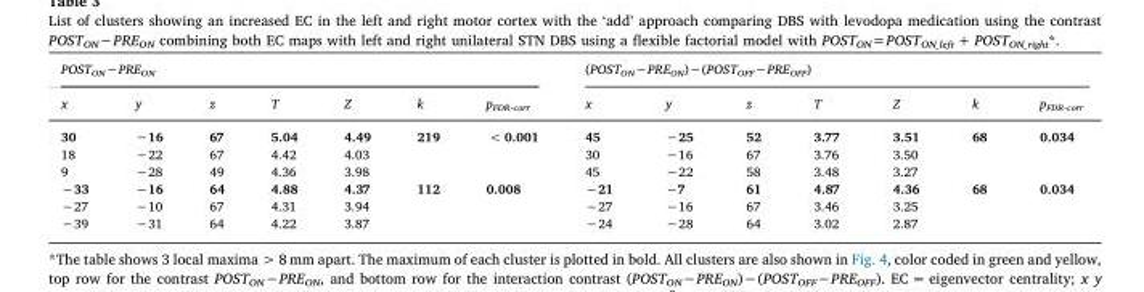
<table><thead><tr><td colspan="7">POST<sub>ON</sub>−PRE<sub>ON</sub></td><td colspan="7">(POST<sub>ON</sub>−PRE<sub>ON</sub>)−(POST<sub>OFF</sub>−PRE<sub>OFF</sub>)</td></tr><tr><td>x</td><td>y</td><td>z</td><td>T</td><td>Z</td><td>k</td><td>p<sub>FDR-corr</sub></td><td>x</td><td>y</td><td>z</td><td>T</td><td>Z</td><td>k</td><td>p<sub>FDR-corr</sub></td></tr></thead><tbody><tr><td>30</td><td>−16</td><td>67</td><td>5.04</td><td>4.49</td><td>219</td><td>&lt; 0.001</td><td>45</td><td>−25</td><td>52</td><td>3.77</td><td>3.51</td><td>68</td><td>0.034</td></tr><tr><td>18</td><td>−22</td><td>67</td><td>4.42</td><td>4.03</td><td></td><td></td><td>30</td><td>−16</td><td>67</td><td>3.76</td><td>3.50</td><td></td><td></td></tr><tr><td>9</td><td>−28</td><td>49</td><td>4.36</td><td>3.98</td><td></td><td></td><td>45</td><td>−22</td><td>58</td><td>3.48</td><td>3.27</td><td></td><td></td></tr><tr><td>−33</td><td>−16</td><td>64</td><td>4.88</td><td>4.37</td><td>112</td><td>0.008</td><td>−21</td><td>−7</td><td>61</td><td>4.87</td><td>4.36</td><td>68</td><td>0.034</td></tr><tr><td>−27</td><td>−10</td><td>67</td><td>4.31</td><td>3.94</td><td></td><td></td><td>−27</td><td>−16</td><td>67</td><td>3.46</td><td>3.25</td><td></td><td></td></tr><tr><td>−39</td><td>−31</td><td>64</td><td>4.22</td><td>3.87</td><td></td><td></td><td>−24</td><td>−28</td><td>64</td><td>3.02</td><td>2.87</td><td></td><td></td></tr></tbody></table>